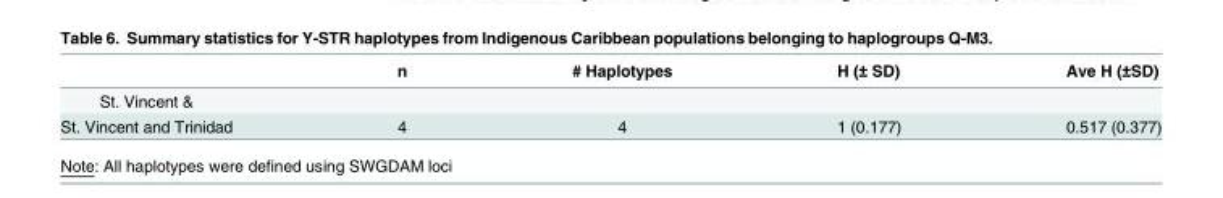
<table><thead><tr><td></td><td>n</td><td># Haplotypes</td><td>H (± SD)</td><td>Ave H (±SD)</td></tr></thead><tbody><tr><td colspan="5">St. Vincent &amp;</td></tr><tr><td>St. Vincent and Trinidad</td><td>4</td><td>4</td><td>1 (0.177)</td><td>0.517 (0.377)</td></tr></tbody></table>